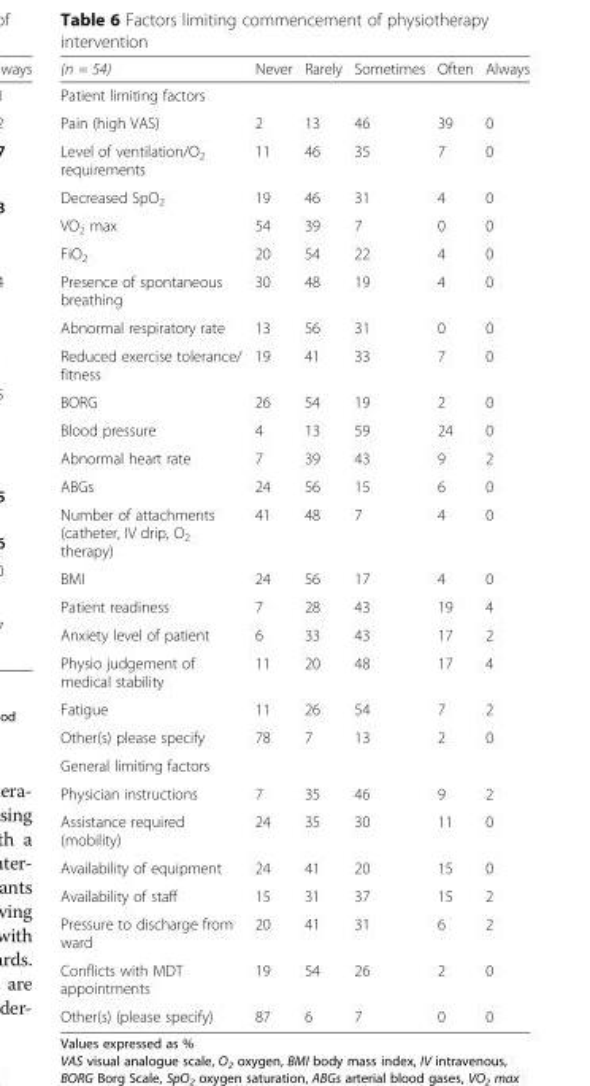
<table><thead><tr><td>(n = 54)</td><td>Never</td><td>Rarely</td><td>Sometimes</td><td>Often</td><td>Always</td></tr></thead><tbody><tr><td colspan="6">Patient limiting factors</td></tr><tr><td>Pain (high VAS)</td><td>2</td><td>13</td><td>46</td><td>39</td><td>0</td></tr><tr><td>Level of ventilation/O<sub>2</sub> requirements</td><td>11</td><td>46</td><td>35</td><td>7</td><td>0</td></tr><tr><td>Decreased SpO<sub>2</sub></td><td>19</td><td>46</td><td>31</td><td>4</td><td>0</td></tr><tr><td>VO<sub>2</sub> max</td><td>54</td><td>39</td><td>7</td><td>0</td><td>0</td></tr><tr><td>FiO<sub>2</sub></td><td>20</td><td>54</td><td>22</td><td>4</td><td>0</td></tr><tr><td>Presence of spontaneous breathing</td><td>30</td><td>48</td><td>19</td><td>4</td><td>0</td></tr><tr><td>Abnormal respiratory rate</td><td>13</td><td>56</td><td>31</td><td>0</td><td>0</td></tr><tr><td>Reduced exercise tolerance/ fitness</td><td>19</td><td>41</td><td>33</td><td>7</td><td>0</td></tr><tr><td>BORG</td><td>26</td><td>54</td><td>19</td><td>2</td><td>0</td></tr><tr><td>Blood pressure</td><td>4</td><td>13</td><td>59</td><td>24</td><td>0</td></tr><tr><td>Abnormal heart rate</td><td>7</td><td>39</td><td>43</td><td>9</td><td>2</td></tr><tr><td>ABGs</td><td>24</td><td>56</td><td>15</td><td>6</td><td>0</td></tr><tr><td>Number of attachments (catheter, IV drip, O<sub>2</sub> therapy)</td><td>41</td><td>48</td><td>7</td><td>4</td><td>0</td></tr><tr><td>BMI</td><td>24</td><td>56</td><td>17</td><td>4</td><td>0</td></tr><tr><td>Patient readiness</td><td>7</td><td>28</td><td>43</td><td>19</td><td>4</td></tr><tr><td>Anxiety level of patient</td><td>6</td><td>33</td><td>43</td><td>17</td><td>2</td></tr><tr><td>Physio judgement of medical stability</td><td>11</td><td>20</td><td>48</td><td>17</td><td>4</td></tr><tr><td>Fatigue</td><td>11</td><td>26</td><td>54</td><td>7</td><td>2</td></tr><tr><td>Other(s) please specify</td><td>78</td><td>7</td><td>13</td><td>2</td><td>0</td></tr><tr><td colspan="6">General limiting factors</td></tr><tr><td>Physician instructions</td><td>7</td><td>35</td><td>46</td><td>9</td><td>2</td></tr><tr><td>Assistance required (mobility)</td><td>24</td><td>35</td><td>30</td><td>11</td><td>0</td></tr><tr><td>Availability of equipment</td><td>24</td><td>41</td><td>20</td><td>15</td><td>0</td></tr><tr><td>Availability of staff</td><td>15</td><td>31</td><td>37</td><td>15</td><td>2</td></tr><tr><td>Pressure to discharge from ward</td><td>20</td><td>41</td><td>31</td><td>6</td><td>2</td></tr><tr><td>Conflicts with MDT appointments</td><td>19</td><td>54</td><td>26</td><td>2</td><td>0</td></tr><tr><td>Other(s) (please specify)</td><td>87</td><td>6</td><td>7</td><td>0</td><td>0</td></tr></tbody></table>